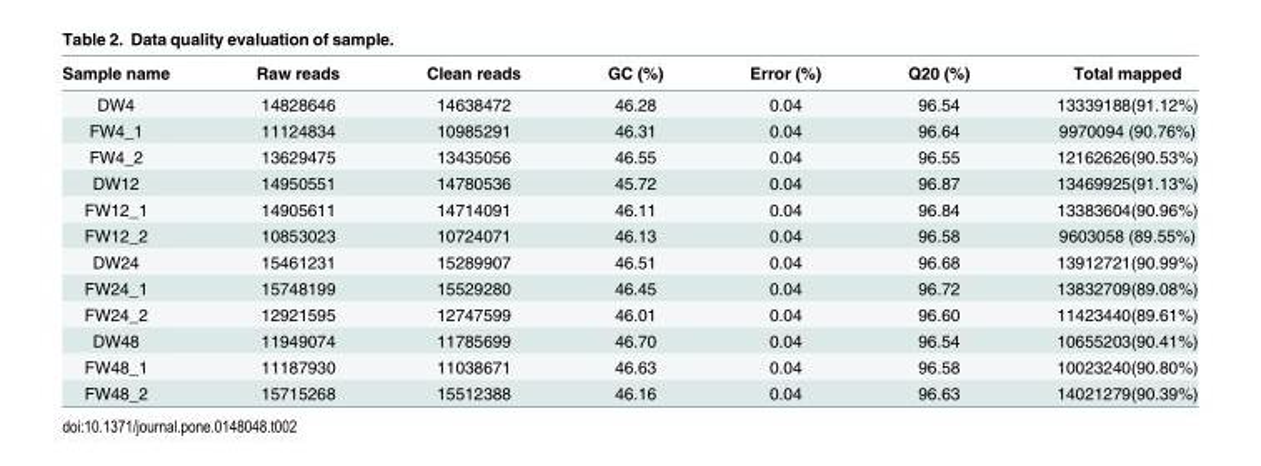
<table><thead><tr><td>Sample name</td><td>Raw reads</td><td>Clean reads</td><td>GC (%)</td><td>Error (%)</td><td>Q20 (%)</td><td>Total mapped</td></tr></thead><tbody><tr><td>DW4</td><td>14828646</td><td>14638472</td><td>46.28</td><td>0.04</td><td>96.54</td><td>13339188(91.12%)</td></tr><tr><td>FW4_1</td><td>11124834</td><td>10985291</td><td>46.31</td><td>0.04</td><td>96.64</td><td>9970094 (90.76%)</td></tr><tr><td>FW4_2</td><td>13629475</td><td>13435056</td><td>46.55</td><td>0.04</td><td>96.55</td><td>12162626(90.53%)</td></tr><tr><td>DW12</td><td>14950551</td><td>14780536</td><td>45.72</td><td>0.04</td><td>96.87</td><td>13469925(91.13%)</td></tr><tr><td>FW12_1</td><td>14905611</td><td>14714091</td><td>46.11</td><td>0.04</td><td>96.84</td><td>13383604(90.96%)</td></tr><tr><td>FW12_2</td><td>10853023</td><td>10724071</td><td>46.13</td><td>0.04</td><td>96.58</td><td>9603058 (89.55%)</td></tr><tr><td>DW24</td><td>15461231</td><td>15289907</td><td>46.51</td><td>0.04</td><td>96.68</td><td>13912721(90.99%)</td></tr><tr><td>FW24_1</td><td>15748199</td><td>15529280</td><td>46.45</td><td>0.04</td><td>96.72</td><td>13832709(89.08%)</td></tr><tr><td>FW24_2</td><td>12921595</td><td>12747599</td><td>46.01</td><td>0.04</td><td>96.60</td><td>11423440(89.61%)</td></tr><tr><td>DW48</td><td>11949074</td><td>11785699</td><td>46.70</td><td>0.04</td><td>96.54</td><td>10655203(90.41%)</td></tr><tr><td>FW48_1</td><td>11187930</td><td>11038671</td><td>46.63</td><td>0.04</td><td>96.58</td><td>10023240(90.80%)</td></tr><tr><td>FW48_2</td><td>15715268</td><td>15512388</td><td>46.16</td><td>0.04</td><td>96.63</td><td>14021279(90.39%)</td></tr></tbody></table>